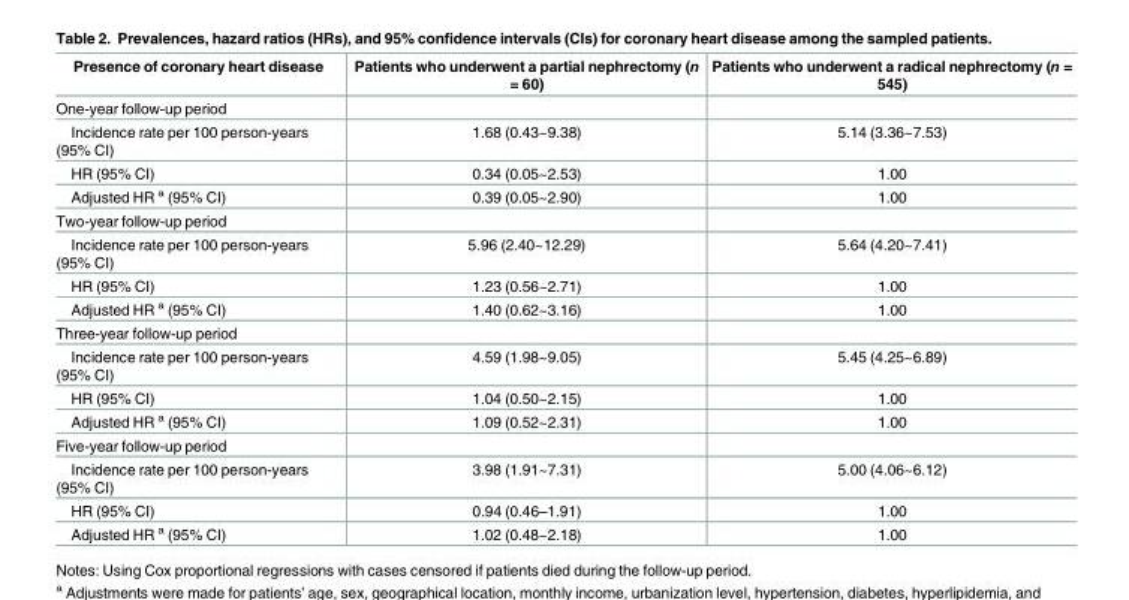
<table><thead><tr><td>Presence of coronary heart disease</td><td>Patients who underwent a partial nephrectomy (n = 60)</td><td>Patients who underwent a radical nephrectomy (n = 545)</td></tr></thead><tbody><tr><td colspan="3">One-year follow-up period</td></tr><tr><td>Incidence rate per 100 person-years (95% CI)</td><td>1.68 (0.43~9.38)</td><td>5.14 (3.36~7.53)</td></tr><tr><td>HR (95% CI)</td><td>0.34 (0.05~2.53)</td><td>1.00</td></tr><tr><td>Adjusted HR <sup>a</sup> (95% CI)</td><td>0.39 (0.05~2.90)</td><td>1.00</td></tr><tr><td colspan="3">Two-year follow-up period</td></tr><tr><td>Incidence rate per 100 person-years (95% CI)</td><td>5.96 (2.40~12.29)</td><td>5.64 (4.20~7.41)</td></tr><tr><td>HR (95% CI)</td><td>1.23 (0.56~2.71)</td><td>1.00</td></tr><tr><td>Adjusted HR <sup>a</sup> (95% CI)</td><td>1.40 (0.62~3.16)</td><td>1.00</td></tr><tr><td colspan="3">Three-year follow-up period</td></tr><tr><td>Incidence rate per 100 person-years (95% CI)</td><td>4.59 (1.98~9.05)</td><td>5.45 (4.25~6.89)</td></tr><tr><td>HR (95% CI)</td><td>1.04 (0.50~2.15)</td><td>1.00</td></tr><tr><td>Adjusted HR <sup>a</sup> (95% CI)</td><td>1.09 (0.52~2.31)</td><td>1.00</td></tr><tr><td colspan="3">Five-year follow-up period</td></tr><tr><td>Incidence rate per 100 person-years (95% CI)</td><td>3.98 (1.91~7.31)</td><td>5.00 (4.06~6.12)</td></tr><tr><td>HR (95% CI)</td><td>0.94 (0.46–1.91)</td><td>1.00</td></tr><tr><td>Adjusted HR <sup>a</sup> (95% CI)</td><td>1.02 (0.48~2.18)</td><td>1.00</td></tr></tbody></table>